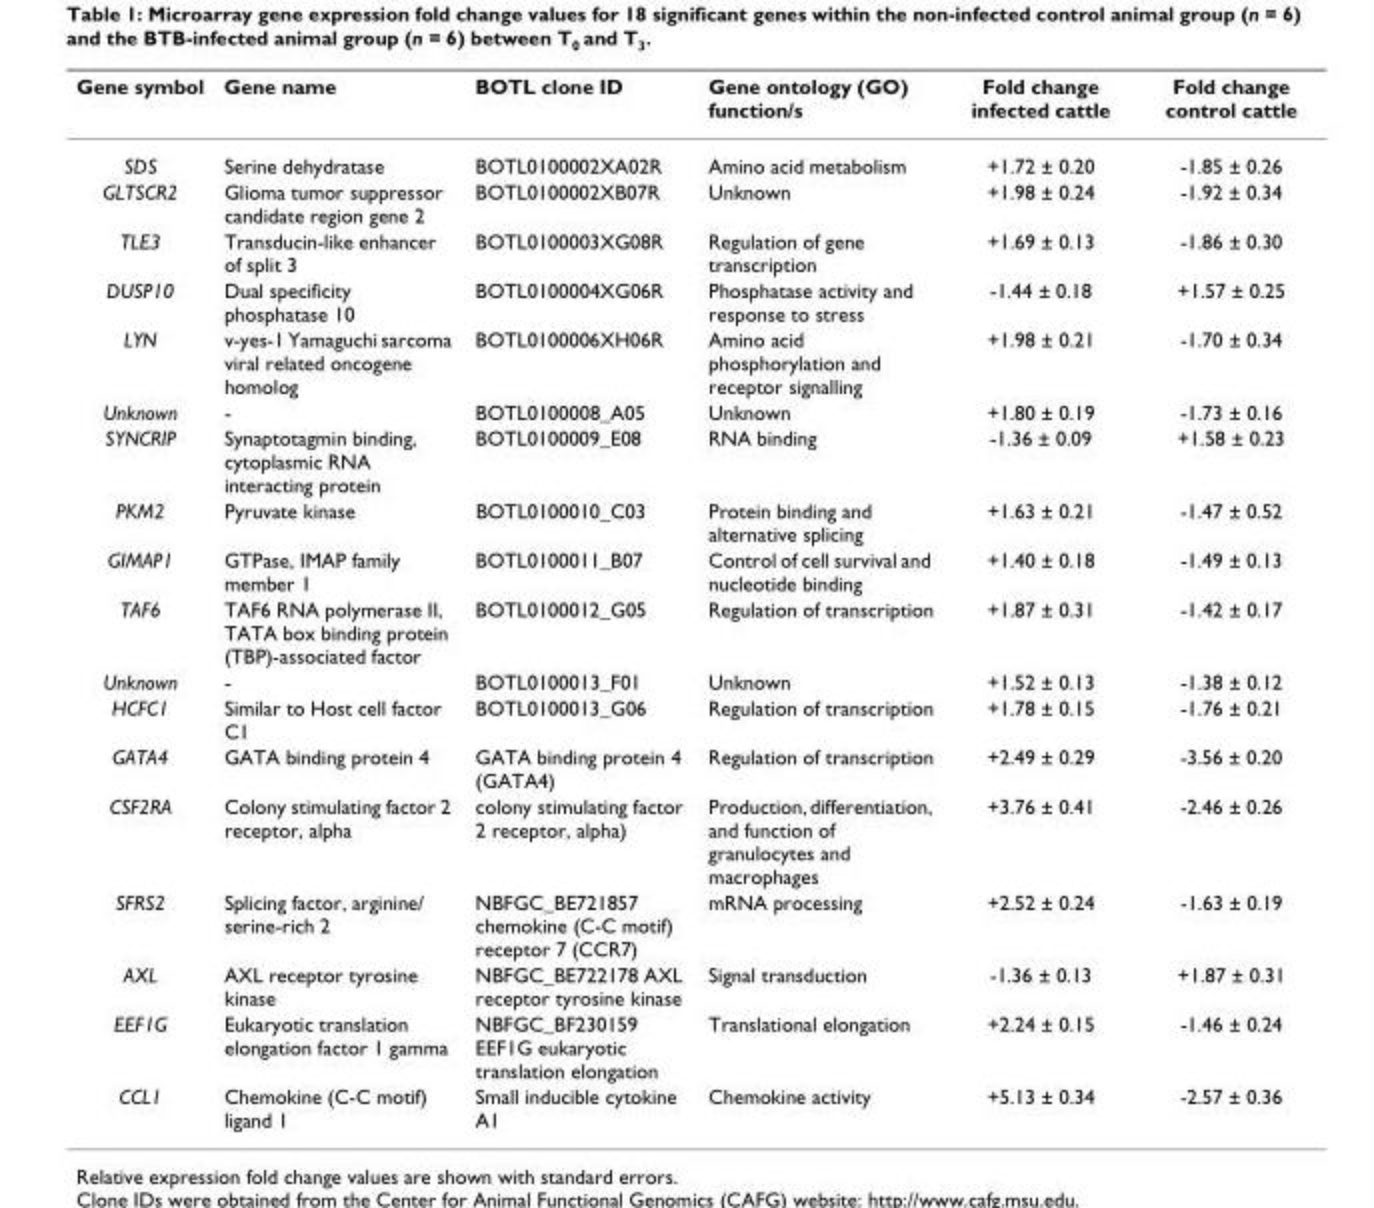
<table><thead><tr><td>Gene symbol</td><td>Gene name</td><td>BOTL clone ID</td><td>Gene ontology (GO) function/s</td><td>Fold change infected cattle</td><td>Fold change control cattle</td></tr></thead><tbody><tr><td>SDS</td><td>Serine dehydratase</td><td>BOTL0100002XA02R</td><td>Amino acid metabolism</td><td>+1.72 ± 0.20</td><td>-1.85 ± 0.26</td></tr><tr><td>GLTSCR2</td><td>Glioma tumor suppressor candidate region gene 2</td><td>BOTL0100002XB07R</td><td>Unknown</td><td>+1.98 ± 0.24</td><td>-1.92 ± 0.34</td></tr><tr><td>TLE3</td><td>Transducin-like enhancer of split 3</td><td>BOTL0100003XG08R</td><td>Regulation of gene transcription</td><td>+1.69 ± 0.13</td><td>-1.86 ± 0.30</td></tr><tr><td>DUSP10</td><td>Dual specificity phosphatase 10</td><td>BOTL0100004XG06R</td><td>Phosphatase activity and response to stress</td><td>-1.44 ± 0.18</td><td>+1.57 ± 0.25</td></tr><tr><td>LYN</td><td>v-yes-1 Yamaguchi sarcoma viral related oncogene homolog</td><td>BOTL0100006XH06R</td><td>Amino acid phosphorylation and receptor signalling</td><td>+1.98 ± 0.21</td><td>-1.70 ± 0.34</td></tr><tr><td>Unknown</td><td>-</td><td>BOTL0100008_A05</td><td>Unknown</td><td>+1.80 ± 0.19</td><td>-1.73 ± 0.16</td></tr><tr><td>SYNCRIP</td><td>Synaptotagmin binding, cytoplasmic RNA interacting protein</td><td>BOTL0100009_E08</td><td>RNA binding</td><td>-1.36 ± 0.09</td><td>+1.58 ± 0.23</td></tr><tr><td>PKM2</td><td>Pyruvate kinase</td><td>BOTL0100010_C03</td><td>Protein binding and alternative splicing</td><td>+1.63 ± 0.21</td><td>-1.47 ± 0.52</td></tr><tr><td>GIMAP1</td><td>GTPase, IMAP family member 1</td><td>BOTL0100011_B07</td><td>Control of cell survival and nucleotide binding</td><td>+1.40 ± 0.18</td><td>-1.49 ± 0.13</td></tr><tr><td>TAF6</td><td>TAF6 RNA polymerase II, TATA box binding protein (TBP)-associated factor</td><td>BOTL0100012_G05</td><td>Regulation of transcription</td><td>+1.87 ± 0.31</td><td>-1.42 ± 0.17</td></tr><tr><td>Unknown</td><td>-</td><td>BOTL0100013_F01</td><td>Unknown</td><td>+1.52 ± 0.13</td><td>-1.38 ± 0.12</td></tr><tr><td>HCFC1</td><td>Similar to Host cell factor C1</td><td>BOTL0100013_G06</td><td>Regulation of transcription</td><td>+1.78 ± 0.15</td><td>-1.76 ± 0.21</td></tr><tr><td>GATA4</td><td>GATA binding protein 4</td><td>GATA binding protein 4 (GATA4)</td><td>Regulation of transcription</td><td>+2.49 ± 0.29</td><td>-3.56 ± 0.20</td></tr><tr><td>CSF2RA</td><td>Colony stimulating factor 2 receptor, alpha</td><td>colony stimulating factor 2 receptor, alpha)</td><td>Production, differentiation, and function of granulocytes and macrophages</td><td>+3.76 ± 0.41</td><td>-2.46 ± 0.26</td></tr><tr><td>SFRS2</td><td>Splicing factor, arginine/ serine-rich 2</td><td>NBFGC_BE721857 chemokine (C-C motif) receptor 7 (CCR7)</td><td>mRNA processing</td><td>+2.52 ± 0.24</td><td>-1.63 ± 0.19</td></tr><tr><td>AXL</td><td>AXL receptor tyrosine kinase</td><td>NBFGC_BE722178 AXL receptor tyrosine kinase</td><td>Signal transduction</td><td>-1.36 ± 0.13</td><td>+1.87 ± 0.31</td></tr><tr><td>EEF1G</td><td>Eukaryotic translation elongation factor 1 gamma</td><td>NBFGC_BF230159 EEF1G eukaryotic translation elongation</td><td>Translational elongation</td><td>+2.24 ± 0.15</td><td>-1.46 ± 0.24</td></tr><tr><td>CCL1</td><td>Chemokine (C-C motif) ligand 1</td><td>Small inducible cytokine A1</td><td>Chemokine activity</td><td>+5.13 ± 0.34</td><td>-2.57 ± 0.36</td></tr></tbody></table>